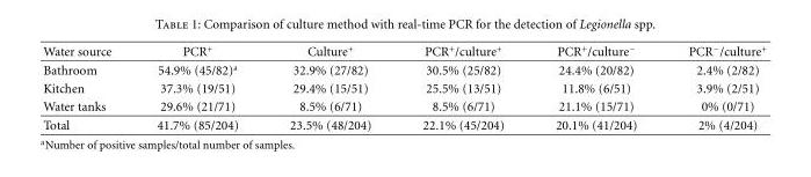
<table><thead><tr><td>Water source</td><td>PCR<sup>+</sup></td><td>Culture<sup>+</sup></td><td>PCR<sup>+</sup>/culture<sup>+</sup></td><td>PCR<sup>+</sup>/culture<sup>−</sup></td><td>PCR<sup>−</sup>/culture<sup>+</sup></td></tr></thead><tbody><tr><td>Bathroom</td><td>54.9% (45/82)<sup>a</sup></td><td>32.9% (27/82)</td><td>30.5% (25/82)</td><td>24.4% (20/82)</td><td>2.4% (2/82)</td></tr><tr><td>Kitchen</td><td>37.3% (19/51)</td><td>29.4% (15/51)</td><td>25.5% (13/51)</td><td>11.8% (6/51)</td><td>3.9% (2/51)</td></tr><tr><td>Water tanks</td><td>29.6% (21/71)</td><td>8.5% (6/71)</td><td>8.5% (6/71)</td><td>21.1% (15/71)</td><td>0% (0/71)</td></tr><tr><td>Total</td><td>41.7% (85/204)</td><td>23.5% (48/204)</td><td>22.1% (45/204)</td><td>20.1% (41/204)</td><td>2% (4/204)</td></tr></tbody></table>